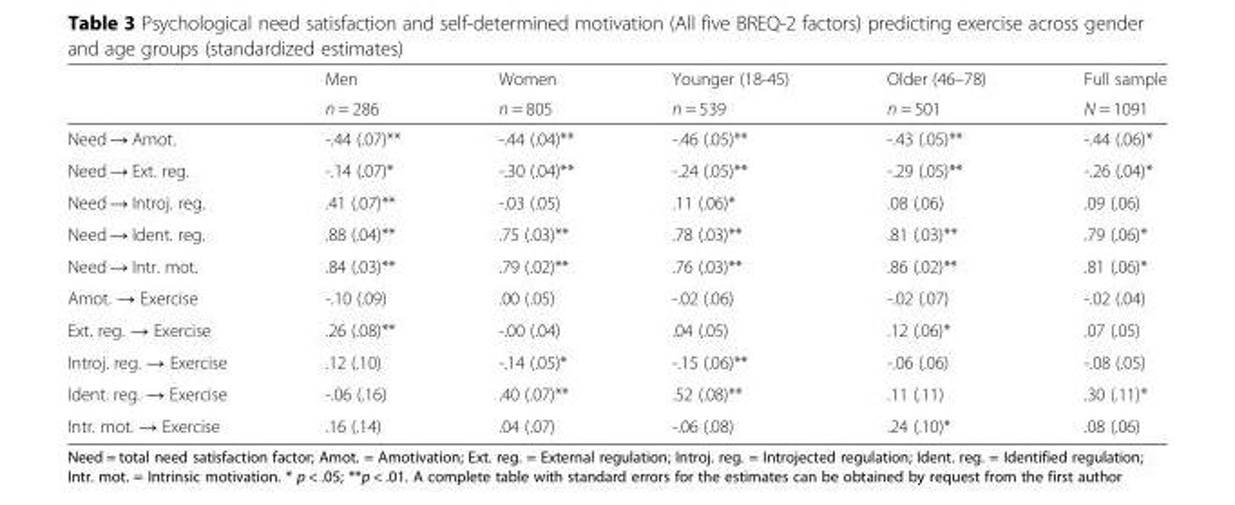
<table><thead><tr><td rowspan="2"></td><td rowspan="2">Men n = 286</td><td rowspan="2">Women n = 805</td><td rowspan="2">Younger (18-45) n = 539</td><td rowspan="2">Older (46–78) n = 501</td><td rowspan="2">Full sample N = 1091</td></tr><tr></tr></thead><tbody><tr><td>Need → Amot.</td><td>-.44 (.07)**</td><td>-.44 (.04)**</td><td>-.46 (.05)**</td><td>-.43 (.05)**</td><td>-.44 (.06)*</td></tr><tr><td>Need → Ext. reg.</td><td>-.14 (.07)*</td><td>-.30 (.04)**</td><td>-.24 (.05)**</td><td>-.29 (.05)**</td><td>-.26 (.04)*</td></tr><tr><td>Need → Introj. reg.</td><td>.41 (.07)**</td><td>-.03 (.05)</td><td>.11 (.06)*</td><td>.08 (.06)</td><td>.09 (.06)</td></tr><tr><td>Need → Ident. reg.</td><td>.88 (.04)**</td><td>.75 (.03)**</td><td>.78 (.03)**</td><td>.81 (.03)**</td><td>.79 (.06)*</td></tr><tr><td>Need → Intr. mot.</td><td>.84 (.03)**</td><td>.79 (.02)**</td><td>.76 (.03)**</td><td>.86 (.02)**</td><td>.81 (.06)*</td></tr><tr><td>Amot. → Exercise</td><td>-.10 (.09)</td><td>.00 (.05)</td><td>-.02 (.06)</td><td>-.02 (.07)</td><td>-.02 (.04)</td></tr><tr><td>Ext. reg. → Exercise</td><td>.26 (.08)**</td><td>-.00 (.04)</td><td>.04 (.05)</td><td>.12 (.06)*</td><td>.07 (.05)</td></tr><tr><td>Introj. reg. → Exercise</td><td>.12 (.10)</td><td>-.14 (.05)*</td><td>-.15 (.06)**</td><td>-.06 (.06)</td><td>-.08 (.05)</td></tr><tr><td>Ident. reg. → Exercise</td><td>-.06 (.16)</td><td>.40 (.07)**</td><td>.52 (.08)**</td><td>.11 (.11)</td><td>.30 (.11)*</td></tr><tr><td>Intr. mot. → Exercise</td><td>.16 (.14)</td><td>.04 (.07)</td><td>-.06 (.08)</td><td>.24 (.10)*</td><td>.08 (.06)</td></tr></tbody></table>